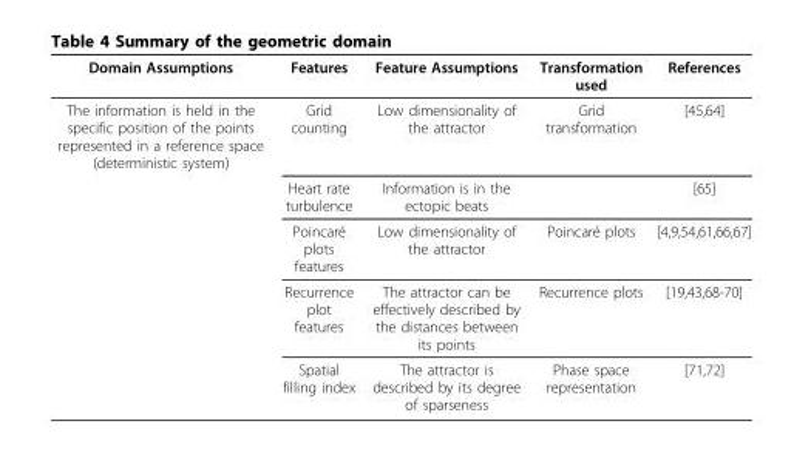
<table><thead><tr><td>Domain Assumptions</td><td>Features</td><td>Feature Assumptions</td><td>Transformation used</td><td>References</td></tr></thead><tbody><tr><td rowspan="5">The information is held in the specific position of the points represented in a reference space (deterministic system)</td><td>Grid counting</td><td>Low dimensionality of the attractor</td><td>Grid transformation</td><td>[45,64]</td></tr><tr><td>Heart rate turbulence</td><td>Information is in the ectopic beats</td><td></td><td>[65]</td></tr><tr><td>Poincaré plots features</td><td>Low dimensionality of the attractor</td><td>Poincaré plots</td><td>[4,9,54,61,66,67]</td></tr><tr><td>Recurrence plot features</td><td>The attractor can be effectively described by the distances between its points</td><td>Recurrence plots</td><td>[19,43,68-70]</td></tr><tr><td>Spatial filling index</td><td>The attractor is described by its degree of sparseness</td><td>Phase space representation</td><td>[71,72]</td></tr></tbody></table>